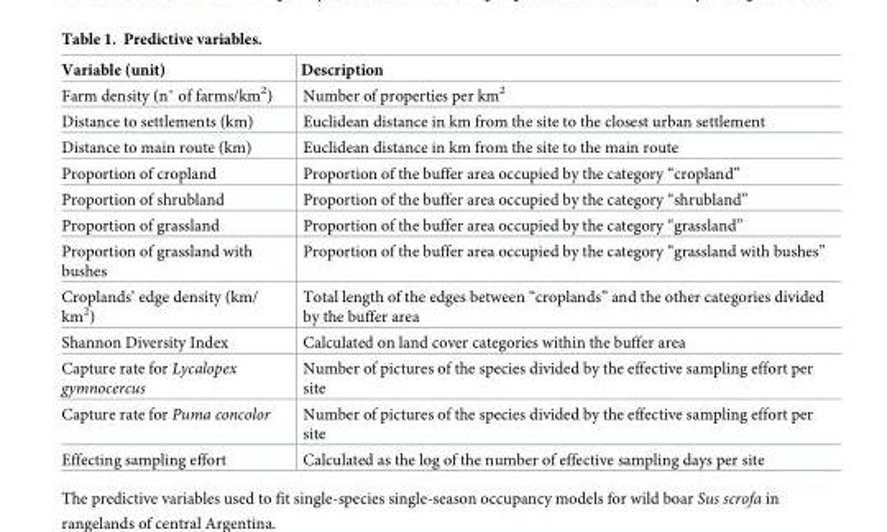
<table><thead><tr><td>Variable (unit)</td><td>Description</td></tr></thead><tbody><tr><td>Farm density (n˚ of farms/km2)</td><td>Number of properties per km<sup>2</sup></td></tr><tr><td>Distance to settlements (km)</td><td>Euclidean distance in km from the site to the closest urban settlement</td></tr><tr><td>Distance to main route (km)</td><td>Euclidean distance in km from the site to the main route</td></tr><tr><td>Proportion of cropland</td><td>Proportion of the buffer area occupied by the category “cropland”</td></tr><tr><td>Proportion of shrubland</td><td>Proportion of the buffer area occupied by the category “shrubland”</td></tr><tr><td>Proportion of grassland</td><td>Proportion of the buffer area occupied by the category “grassland”</td></tr><tr><td>Proportion of grassland with bushes</td><td>Proportion of the buffer area occupied by the category “grassland with bushes”</td></tr><tr><td>Croplands’ edge density (km/ km<sup>2</sup>)</td><td>Total length of the edges between “croplands” and the other categories divided by the buffer area</td></tr><tr><td>Shannon Diversity Index</td><td>Calculated on land cover categories within the buffer area</td></tr><tr><td>Capture rate for Lycalopex gymnocercus</td><td>Number of pictures of the species divided by the effective sampling effort per site</td></tr><tr><td>Capture rate for Puma concolor</td><td>Number of pictures of the species divided by the effective sampling effort per site</td></tr><tr><td>Effecting sampling effort</td><td>Calculated as the log of the number of effective sampling days per site</td></tr></tbody></table>